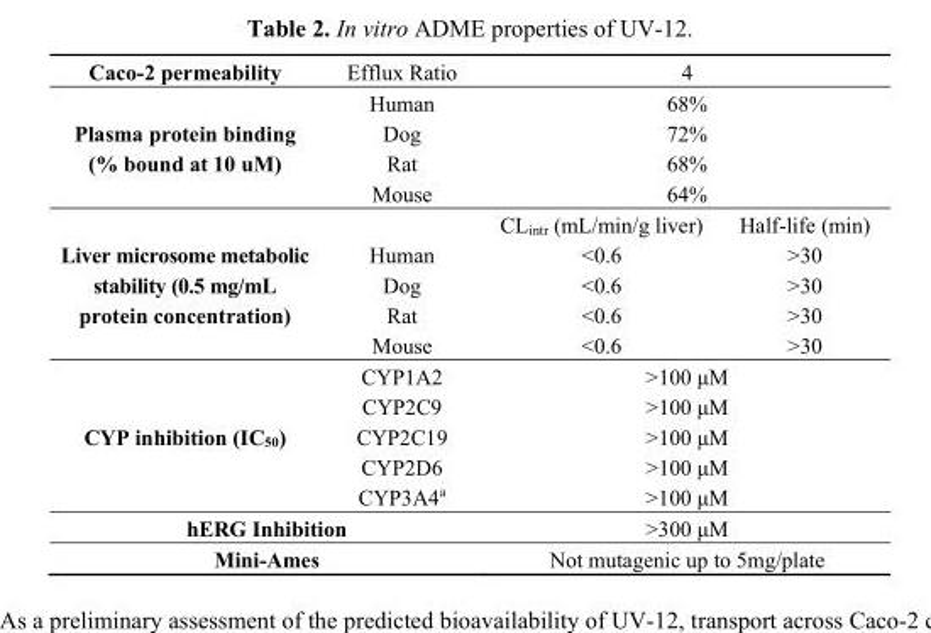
<table><tbody><tr><td>Caco-2 permeability</td><td>Efflux Ratio</td><td colspan="2">4</td></tr><tr><td rowspan="4">Plasma protein binding (% bound at 10 uM)</td><td>Human</td><td colspan="2">68%</td></tr><tr><td>Dog</td><td colspan="2">72%</td></tr><tr><td>Rat</td><td colspan="2">68%</td></tr><tr><td>Mouse</td><td colspan="2">64%</td></tr><tr><td rowspan="5">Liver microsome metabolic stability (0.5 mg/mL protein concentration)</td><td></td><td>CL<sub>intr</sub> (mL/min/g liver)</td><td>Half-life (min)</td></tr><tr><td>Human</td><td>&lt;0.6</td><td>&gt;30</td></tr><tr><td>Dog</td><td>&lt;0.6</td><td>&gt;30</td></tr><tr><td>Rat</td><td>&lt;0.6</td><td>&gt;30</td></tr><tr><td>Mouse</td><td>&lt;0.6</td><td>&gt;30</td></tr><tr><td rowspan="5">CYP inhibition (IC<sub>50</sub>)</td><td>CYP1A2</td><td colspan="2">&gt;100 μM</td></tr><tr><td>CYP2C9</td><td colspan="2">&gt;100 μM</td></tr><tr><td>CYP2C19</td><td colspan="2">&gt;100 μM</td></tr><tr><td>CYP2D6</td><td colspan="2">&gt;100 μM</td></tr><tr><td>CYP3A4<sup>a</sup></td><td colspan="2">&gt;100 μM</td></tr><tr><td colspan="2">hERG Inhibition</td><td colspan="2">&gt;300 μM</td></tr><tr><td colspan="2">Mini-Ames</td><td colspan="2">Not mutagenic up to 5mg/plate</td></tr></tbody></table>